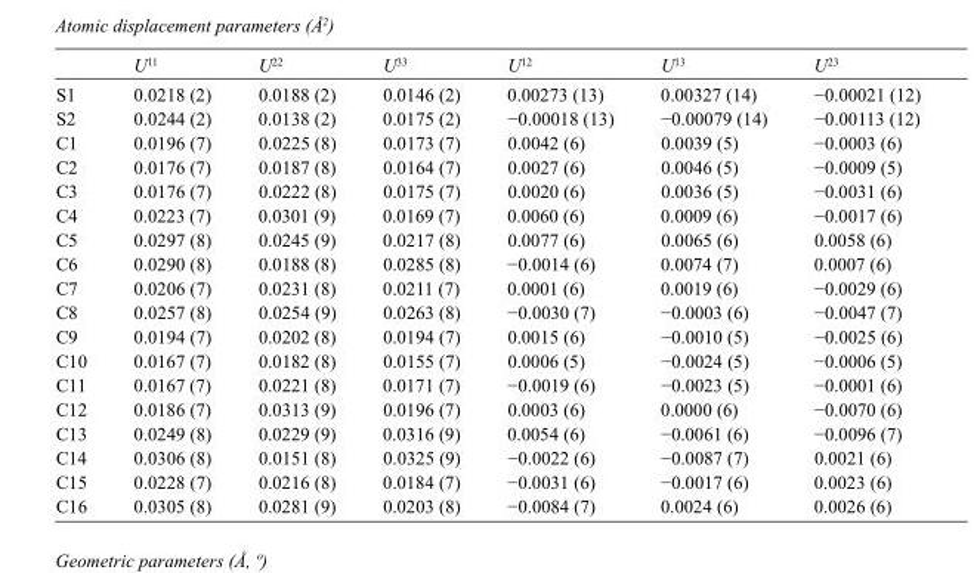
<table><thead><tr><td></td><td>U<sup>11</sup></td><td>U<sup>22</sup></td><td>U<sup>33</sup></td><td>U<sup>12</sup></td><td>U<sup>13</sup></td><td>U<sup>23</sup></td></tr></thead><tbody><tr><td>S1</td><td>0.0218 (2)</td><td>0.0188 (2)</td><td>0.0146 (2)</td><td>0.00273 (13)</td><td>0.00327 (14)</td><td>−0.00021 (12)</td></tr><tr><td>S2</td><td>0.0244 (2)</td><td>0.0138 (2)</td><td>0.0175 (2)</td><td>−0.00018 (13)</td><td>−0.00079 (14)</td><td>−0.00113 (12)</td></tr><tr><td>C1</td><td>0.0196 (7)</td><td>0.0225 (8)</td><td>0.0173 (7)</td><td>0.0042 (6)</td><td>0.0039 (5)</td><td>−0.0003 (6)</td></tr><tr><td>C2</td><td>0.0176 (7)</td><td>0.0187 (8)</td><td>0.0164 (7)</td><td>0.0027 (6)</td><td>0.0046 (5)</td><td>−0.0009 (5)</td></tr><tr><td>C3</td><td>0.0176 (7)</td><td>0.0222 (8)</td><td>0.0175 (7)</td><td>0.0020 (6)</td><td>0.0036 (5)</td><td>−0.0031 (6)</td></tr><tr><td>C4</td><td>0.0223 (7)</td><td>0.0301 (9)</td><td>0.0169 (7)</td><td>0.0060 (6)</td><td>0.0009 (6)</td><td>−0.0017 (6)</td></tr><tr><td>C5</td><td>0.0297 (8)</td><td>0.0245 (9)</td><td>0.0217 (8)</td><td>0.0077 (6)</td><td>0.0065 (6)</td><td>0.0058 (6)</td></tr><tr><td>C6</td><td>0.0290 (8)</td><td>0.0188 (8)</td><td>0.0285 (8)</td><td>−0.0014 (6)</td><td>0.0074 (7)</td><td>0.0007 (6)</td></tr><tr><td>C7</td><td>0.0206 (7)</td><td>0.0231 (8)</td><td>0.0211 (7)</td><td>0.0001 (6)</td><td>0.0019 (6)</td><td>−0.0029 (6)</td></tr><tr><td>C8</td><td>0.0257 (8)</td><td>0.0254 (9)</td><td>0.0263 (8)</td><td>−0.0030 (7)</td><td>−0.0003 (6)</td><td>−0.0047 (7)</td></tr><tr><td>C9</td><td>0.0194 (7)</td><td>0.0202 (8)</td><td>0.0194 (7)</td><td>0.0015 (6)</td><td>−0.0010 (5)</td><td>−0.0025 (6)</td></tr><tr><td>C10</td><td>0.0167 (7)</td><td>0.0182 (8)</td><td>0.0155 (7)</td><td>0.0006 (5)</td><td>−0.0024 (5)</td><td>−0.0006 (5)</td></tr><tr><td>C11</td><td>0.0167 (7)</td><td>0.0221 (8)</td><td>0.0171 (7)</td><td>−0.0019 (6)</td><td>−0.0023 (5)</td><td>−0.0001 (6)</td></tr><tr><td>C12</td><td>0.0186 (7)</td><td>0.0313 (9)</td><td>0.0196 (7)</td><td>0.0003 (6)</td><td>0.0000 (6)</td><td>−0.0070 (6)</td></tr><tr><td>C13</td><td>0.0249 (8)</td><td>0.0229 (9)</td><td>0.0316 (9)</td><td>0.0054 (6)</td><td>−0.0061 (6)</td><td>−0.0096 (7)</td></tr><tr><td>C14</td><td>0.0306 (8)</td><td>0.0151 (8)</td><td>0.0325 (9)</td><td>−0.0022 (6)</td><td>−0.0087 (7)</td><td>0.0021 (6)</td></tr><tr><td>C15</td><td>0.0228 (7)</td><td>0.0216 (8)</td><td>0.0184 (7)</td><td>−0.0031 (6)</td><td>−0.0017 (6)</td><td>0.0023 (6)</td></tr><tr><td>C16</td><td>0.0305 (8)</td><td>0.0281 (9)</td><td>0.0203 (8)</td><td>−0.0084 (7)</td><td>0.0024 (6)</td><td>0.0026 (6)</td></tr></tbody></table>